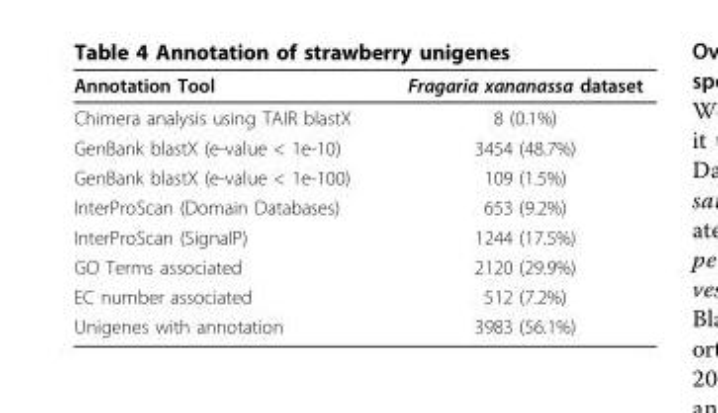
<table><thead><tr><td>Annotation Tool</td><td>Fragaria xananassa dataset</td></tr></thead><tbody><tr><td>Chimera analysis using TAIR blastX</td><td>8 (0.1%)</td></tr><tr><td>GenBank blastX (e-value &lt; 1e-10)</td><td>3454 (48.7%)</td></tr><tr><td>GenBank blastX (e-value &lt; 1e-100)</td><td>109 (1.5%)</td></tr><tr><td>InterProScan (Domain Databases)</td><td>653 (9.2%)</td></tr><tr><td>InterProScan (SignalP)</td><td>1244 (17.5%)</td></tr><tr><td>GO Terms associated</td><td>2120 (29.9%)</td></tr><tr><td>EC number associated</td><td>512 (7.2%)</td></tr><tr><td>Unigenes with annotation</td><td>3983 (56.1%)</td></tr></tbody></table>